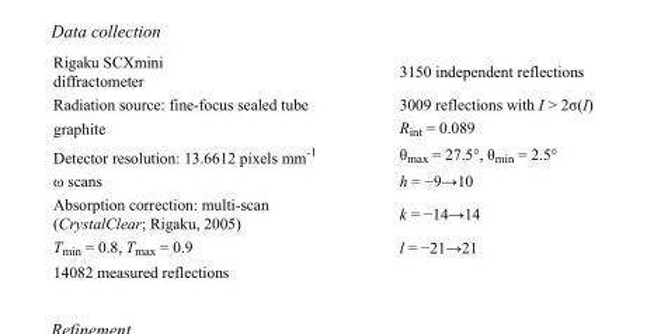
<table><tbody><tr><td>Rigaku SCXmini diffractometer</td><td>3150 independent reflections</td></tr><tr><td>Radiation source: fine-focus sealed tube</td><td>3009 reflections with I &gt; 2σ(I)</td></tr><tr><td>graphite</td><td>R<sub>int</sub> = 0.089</td></tr><tr><td>Detector resolution: 13.6612 pixels mm<sup>-1</sup></td><td>θ<sub>max</sub> = 27.5°, θ<sub>min</sub> = 2.5°</td></tr><tr><td>ω scans</td><td>h = −9→10</td></tr><tr><td>Absorption correction: multi-scan (CrystalClear; Rigaku, 2005)</td><td>k = −14→14</td></tr><tr><td>T<sub>min</sub> = 0.8, T<sub>max</sub> = 0.9</td><td>l = −21→21</td></tr><tr><td>14082 measured reflections</td><td></td></tr></tbody></table>